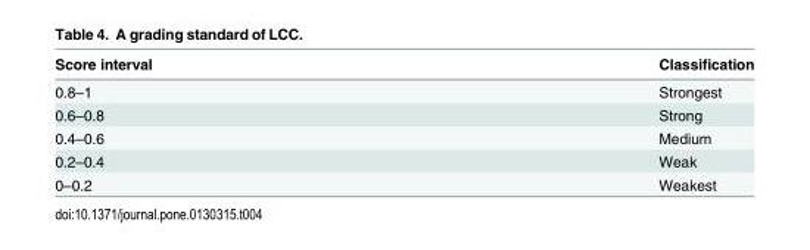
<table><thead><tr><td>Score interval</td><td>Classification</td></tr></thead><tbody><tr><td>0.8–1</td><td>Strongest</td></tr><tr><td>0.6–0.8</td><td>Strong</td></tr><tr><td>0.4–0.6</td><td>Medium</td></tr><tr><td>0.2–0.4</td><td>Weak</td></tr><tr><td>0–0.2</td><td>Weakest</td></tr></tbody></table>